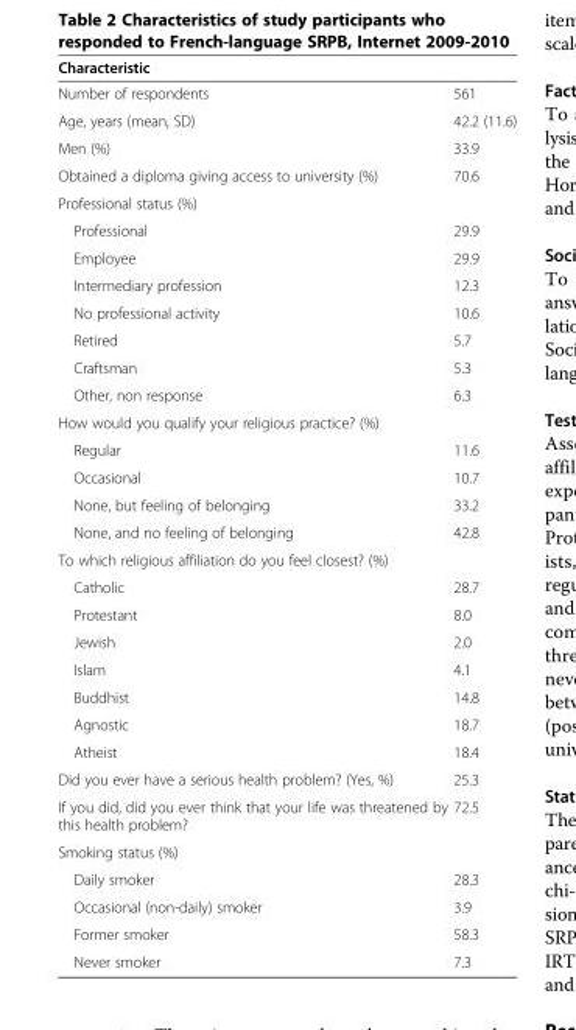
<table><thead><tr><td>Characteristic</td><td></td></tr></thead><tbody><tr><td>Number of respondents</td><td>561</td></tr><tr><td>Age, years (mean, SD)</td><td>42.2 (11.6)</td></tr><tr><td>Men (%)</td><td>33.9</td></tr><tr><td>Obtained a diploma giving access to university (%)</td><td>70.6</td></tr><tr><td colspan="2">Professional status (%)</td></tr><tr><td>Professional</td><td>29.9</td></tr><tr><td>Employee</td><td>29.9</td></tr><tr><td>Intermediary profession</td><td>12.3</td></tr><tr><td>No professional activity</td><td>10.6</td></tr><tr><td>Retired</td><td>5.7</td></tr><tr><td>Craftsman</td><td>5.3</td></tr><tr><td>Other, non response</td><td>6.3</td></tr><tr><td colspan="2">How would you qualify your religious practice? (%)</td></tr><tr><td>Regular</td><td>11.6</td></tr><tr><td>Occasional</td><td>10.7</td></tr><tr><td>None, but feeling of belonging</td><td>33.2</td></tr><tr><td>None, and no feeling of belonging</td><td>42.8</td></tr><tr><td colspan="2">To which religious affiliation do you feel closest? (%)</td></tr><tr><td>Catholic</td><td>28.7</td></tr><tr><td>Protestant</td><td>8.0</td></tr><tr><td>Jewish</td><td>2.0</td></tr><tr><td>Islam</td><td>4.1</td></tr><tr><td>Buddhist</td><td>14.8</td></tr><tr><td>Agnostic</td><td>18.7</td></tr><tr><td>Atheist</td><td>18.4</td></tr><tr><td>Did you ever have a serious health problem? (Yes, %)</td><td>25.3</td></tr><tr><td>If you did, did you ever think that your life was threatened by this health problem?</td><td>72.5</td></tr><tr><td colspan="2">Smoking status (%)</td></tr><tr><td>Daily smoker</td><td>28.3</td></tr><tr><td>Occasional (non-daily) smoker</td><td>3.9</td></tr><tr><td>Former smoker</td><td>58.3</td></tr><tr><td>Never smoker</td><td>7.3</td></tr></tbody></table>